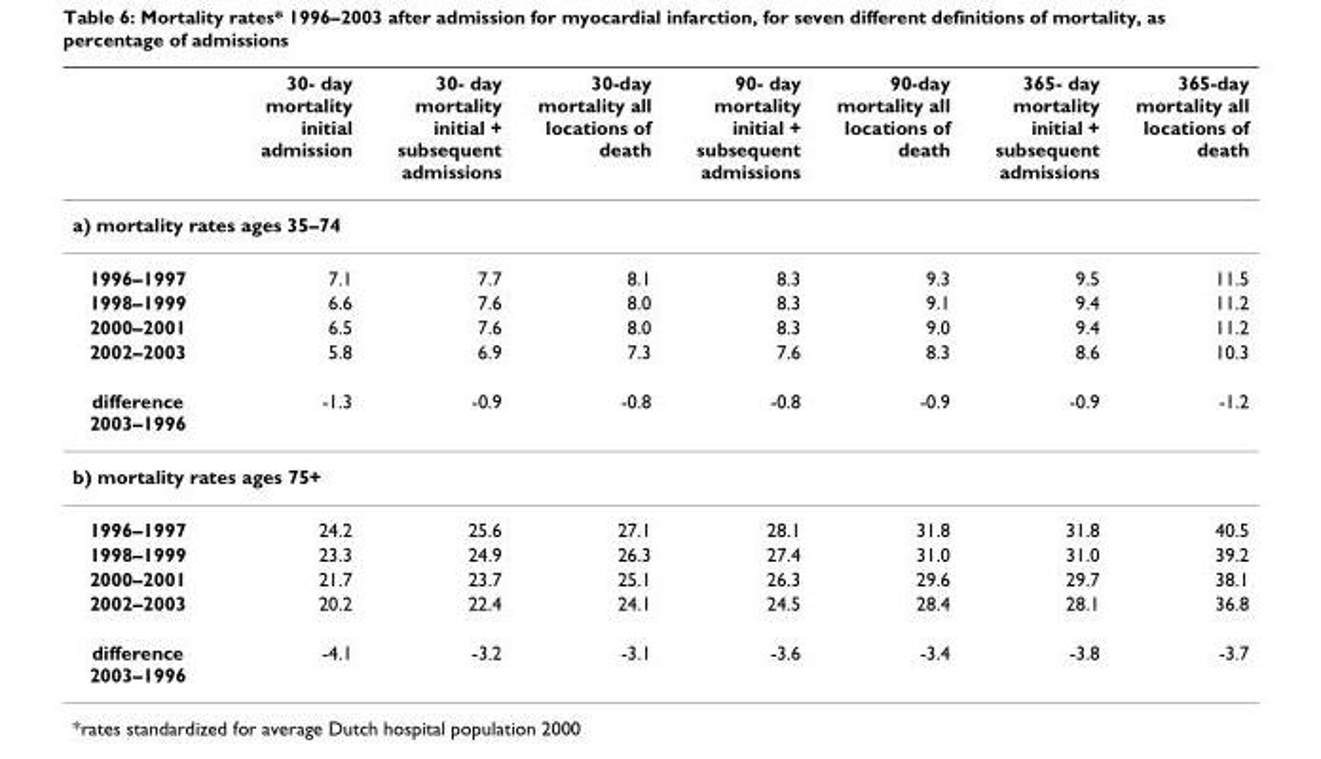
<table><thead><tr><td></td><td>30- day mortality initial admission</td><td>30- day mortality initial + subsequent admissions</td><td>30-day mortality all locations of death</td><td>90- day mortality initial + subsequent admissions</td><td>90-day mortality all locations of death</td><td>365- day mortality initial + subsequent admissions</td><td>365-day mortality all locations of death</td></tr></thead><tbody><tr><td colspan="8">a) mortality rates ages 35–74</td></tr><tr><td>1996–1997</td><td>7.1</td><td>7.7</td><td>8.1</td><td>8.3</td><td>9.3</td><td>9.5</td><td>11.5</td></tr><tr><td>1998–1999</td><td>6.6</td><td>7.6</td><td>8.0</td><td>8.3</td><td>9.1</td><td>9.4</td><td>11.2</td></tr><tr><td>2000–2001</td><td>6.5</td><td>7.6</td><td>8.0</td><td>8.3</td><td>9.0</td><td>9.4</td><td>11.2</td></tr><tr><td>2002–2003</td><td>5.8</td><td>6.9</td><td>7.3</td><td>7.6</td><td>8.3</td><td>8.6</td><td>10.3</td></tr><tr><td>difference 2003–1996</td><td>-1.3</td><td>-0.9</td><td>-0.8</td><td>-0.8</td><td>-0.9</td><td>-0.9</td><td>-1.2</td></tr><tr><td colspan="8">b) mortality rates ages 75+</td></tr><tr><td>1996–1997</td><td>24.2</td><td>25.6</td><td>27.1</td><td>28.1</td><td>31.8</td><td>31.8</td><td>40.5</td></tr><tr><td>1998–1999</td><td>23.3</td><td>24.9</td><td>26.3</td><td>27.4</td><td>31.0</td><td>31.0</td><td>39.2</td></tr><tr><td>2000–2001</td><td>21.7</td><td>23.7</td><td>25.1</td><td>26.3</td><td>29.6</td><td>29.7</td><td>38.1</td></tr><tr><td>2002–2003</td><td>20.2</td><td>22.4</td><td>24.1</td><td>24.5</td><td>28.4</td><td>28.1</td><td>36.8</td></tr><tr><td>difference 2003–1996</td><td>-4.1</td><td>-3.2</td><td>-3.1</td><td>-3.6</td><td>-3.4</td><td>-3.8</td><td>-3.7</td></tr></tbody></table>